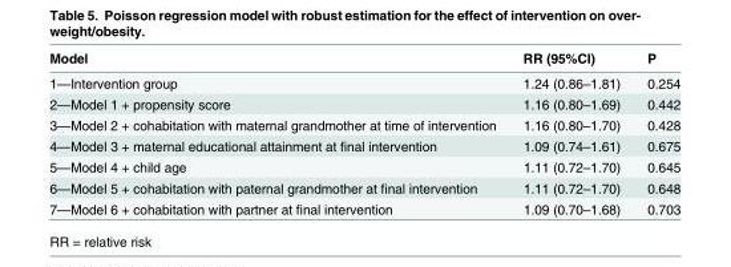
<table><thead><tr><td>Model</td><td>RR (95%CI)</td><td>P</td></tr></thead><tbody><tr><td>1—Intervention group</td><td>1.24 (0.86–1.81)</td><td>0.254</td></tr><tr><td>2—Model 1 + propensity score</td><td>1.16 (0.80–1.69)</td><td>0.442</td></tr><tr><td>3—Model 2 + cohabitation with maternal grandmother at time of intervention</td><td>1.16 (0.80–1.70)</td><td>0.428</td></tr><tr><td>4—Model 3 + maternal educational attainment at final intervention</td><td>1.09 (0.74–1.61)</td><td>0.675</td></tr><tr><td>5—Model 4 + child age</td><td>1.11 (0.72–1.70)</td><td>0.645</td></tr><tr><td>6—Model 5 + cohabitation with paternal grandmother at final intervention</td><td>1.11 (0.72–1.70)</td><td>0.648</td></tr><tr><td>7—Model 6 + cohabitation with partner at final intervention</td><td>1.09 (0.70–1.68)</td><td>0.703</td></tr></tbody></table>